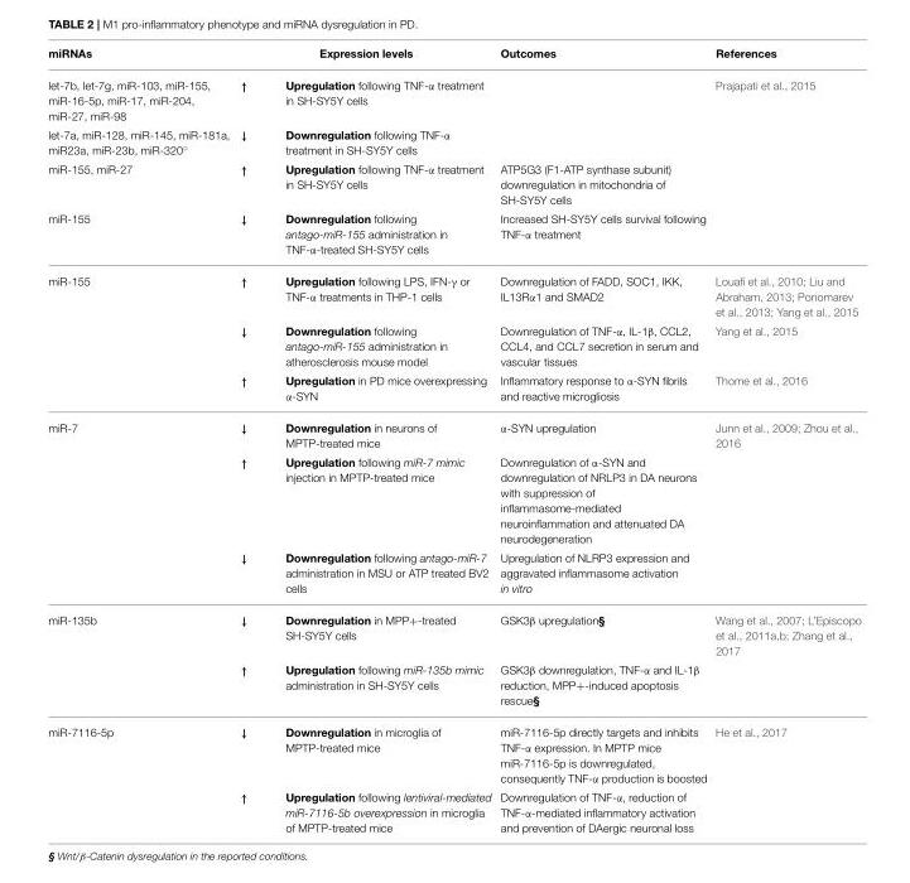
<table><thead><tr><td rowspan="2">miRNAs let-7b, let-7g, miR-103, miR-155, miR-16-5p, miR-17, miR-204, miR-27, miR-98</td><td colspan="2">Expression levels</td><td rowspan="2">Outcomes</td><td rowspan="2">References Prajapati et al., 2015</td></tr><tr><td>↑</td><td>Upregulation following TNF-α treatment in SH-SY5Y cells</td></tr></thead><tbody><tr><td>let-7a, miR-128, miR-145, miR-181a, miR23a, miR-23b, miR-320◦</td><td>↓</td><td>Downregulation following TNF-α treatment in SH-SY5Y cells</td><td></td><td></td></tr><tr><td>miR-155, miR-27</td><td>↑</td><td>Upregulation following TNF-α treatment in SH-SY5Y cells</td><td>ATP5G3 (F1-ATP synthase subunit) downregulation in mitochondria of SH-SY5Y cells</td><td></td></tr><tr><td>miR-155</td><td>↓</td><td>Downregulation following antago-miR-155 administration in TNF-α-treated SH-SY5Y cells</td><td>Increased SH-SY5Y cells survival following TNF-α treatment</td><td></td></tr><tr><td rowspan="3">miR-155</td><td>↑</td><td>Upregulation following LPS, IFN-γ or TNF-α treatments in THP-1 cells</td><td>Downregulation of FADD, SOC1, IKK, IL13Rα1 and SMAD2</td><td>Louafi et al., 2010; Liu and Abraham, 2013; Ponomarev et al., 2013; Yang et al., 2015</td></tr><tr><td>↓</td><td>Downregulation following antago-miR-155 administration in atherosclerosis mouse model</td><td>Downregulation of TNF-α, IL-1β, CCL2, CCL4, and CCL7 secretion in serum and vascular tissues</td><td>Yang et al., 2015</td></tr><tr><td>↑</td><td>Upregulation in PD mice overexpressing α-SYN</td><td>Inflammatory response to α-SYN fibrils and reactive microgliosis</td><td>Thome et al., 2016</td></tr><tr><td rowspan="3">miR-7</td><td>↓</td><td>Downregulation in neurons of MPTP-treated mice</td><td>α-SYN upregulation</td><td>Junn et al., 2009; Zhou et al., 2016</td></tr><tr><td>↑</td><td>Upregulation following miR-7 mimic injection in MPTP-treated mice</td><td>Downregulation of α-SYN and downregulation of NRLP3 in DA neurons with suppression of inflammasome-mediated neuroinflammation and attenuated DA neurodegeneration</td><td></td></tr><tr><td>↓</td><td>Downregulation following antago-miR-7 administration in MSU or ATP treated BV2 cells</td><td>Upregulation of NLRP3 expression and aggravated inflammasome activation in vitro</td><td></td></tr><tr><td rowspan="2">miR-135b</td><td>↓</td><td>Downregulation in MPP+-treated SH-SY5Y cells</td><td>GSK3β upregulation<sup>§</sup></td><td>Wang et al., 2007; L’Episcopo et al., 2011a,b; Zhang et al., 2017</td></tr><tr><td>↑</td><td>Upregulation following miR-135b mimic administration in SH-SY5Y cells</td><td>GSK3β downregulation, TNF-α and IL-1β reduction, MPP+-induced apoptosis rescue<sup>§</sup></td><td></td></tr><tr><td rowspan="2">miR-7116-5p</td><td>↓</td><td>Downregulation in microglia of MPTP-treated mice</td><td>miR-7116-5p directly targets and inhibits TNF-α expression. In MPTP mice miR-7116-5p is downregulated, consequently TNF-α production is boosted</td><td>He et al., 2017</td></tr><tr><td>↑</td><td>Upregulation following lentiviral-mediated miR-7116-5b overexpression in microglia of MPTP-treated mice</td><td>Downregulation of TNF-α, reduction of TNF-α-mediated inflammatory activation and prevention of DAergic neuronal loss</td><td></td></tr></tbody></table>